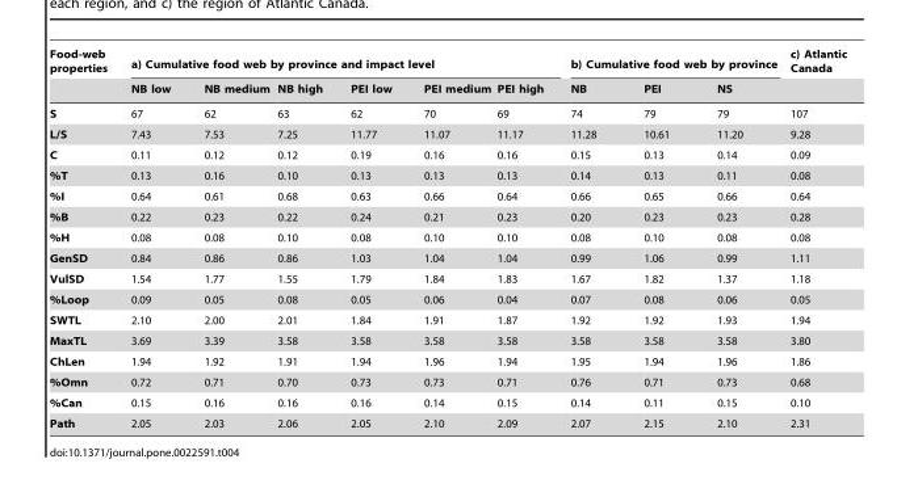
<table><thead><tr><td rowspan="2">Food-web properties</td><td colspan="6">a) Cumulative food web by province and impact level</td><td colspan="3">b) Cumulative food web by province</td><td rowspan="2">c) Atlantic Canada</td></tr><tr><td>NB low</td><td>NB medium</td><td>NB high</td><td>PEI low</td><td>PEI medium</td><td>PEI high</td><td>NB</td><td>PEI</td><td>NS</td></tr></thead><tbody><tr><td>S</td><td>67</td><td>62</td><td>63</td><td>62</td><td>70</td><td>69</td><td>74</td><td>79</td><td>79</td><td>107</td></tr><tr><td>L/S</td><td>7.43</td><td>7.53</td><td>7.25</td><td>11.77</td><td>11.07</td><td>11.17</td><td>11.28</td><td>10.61</td><td>11.20</td><td>9.28</td></tr><tr><td>C</td><td>0.11</td><td>0.12</td><td>0.12</td><td>0.19</td><td>0.16</td><td>0.16</td><td>0.15</td><td>0.13</td><td>0.14</td><td>0.09</td></tr><tr><td>%T</td><td>0.13</td><td>0.16</td><td>0.10</td><td>0.13</td><td>0.13</td><td>0.13</td><td>0.14</td><td>0.13</td><td>0.11</td><td>0.08</td></tr><tr><td>%I</td><td>0.64</td><td>0.61</td><td>0.68</td><td>0.63</td><td>0.66</td><td>0.64</td><td>0.66</td><td>0.65</td><td>0.66</td><td>0.64</td></tr><tr><td>%B</td><td>0.22</td><td>0.23</td><td>0.22</td><td>0.24</td><td>0.21</td><td>0.23</td><td>0.20</td><td>0.23</td><td>0.23</td><td>0.28</td></tr><tr><td>%H</td><td>0.08</td><td>0.08</td><td>0.10</td><td>0.08</td><td>0.10</td><td>0.10</td><td>0.08</td><td>0.10</td><td>0.08</td><td>0.08</td></tr><tr><td>GenSD</td><td>0.84</td><td>0.86</td><td>0.86</td><td>1.03</td><td>1.04</td><td>1.04</td><td>0.99</td><td>1.06</td><td>0.99</td><td>1.11</td></tr><tr><td>VulSD</td><td>1.54</td><td>1.77</td><td>1.55</td><td>1.79</td><td>1.84</td><td>1.83</td><td>1.67</td><td>1.82</td><td>1.37</td><td>1.18</td></tr><tr><td>%Loop</td><td>0.09</td><td>0.05</td><td>0.08</td><td>0.05</td><td>0.06</td><td>0.04</td><td>0.07</td><td>0.08</td><td>0.06</td><td>0.05</td></tr><tr><td>SWTL</td><td>2.10</td><td>2.00</td><td>2.01</td><td>1.84</td><td>1.91</td><td>1.87</td><td>1.92</td><td>1.92</td><td>1.93</td><td>1.94</td></tr><tr><td>MaxTL</td><td>3.69</td><td>3.39</td><td>3.58</td><td>3.58</td><td>3.58</td><td>3.58</td><td>3.58</td><td>3.58</td><td>3.58</td><td>3.80</td></tr><tr><td>ChLen</td><td>1.94</td><td>1.92</td><td>1.91</td><td>1.94</td><td>1.96</td><td>1.94</td><td>1.95</td><td>1.94</td><td>1.96</td><td>1.86</td></tr><tr><td>%Omn</td><td>0.72</td><td>0.71</td><td>0.70</td><td>0.73</td><td>0.73</td><td>0.71</td><td>0.76</td><td>0.71</td><td>0.73</td><td>0.68</td></tr><tr><td>%Can</td><td>0.15</td><td>0.16</td><td>0.16</td><td>0.16</td><td>0.14</td><td>0.15</td><td>0.14</td><td>0.11</td><td>0.15</td><td>0.10</td></tr><tr><td>Path</td><td>2.05</td><td>2.03</td><td>2.06</td><td>2.05</td><td>2.10</td><td>2.09</td><td>2.07</td><td>2.15</td><td>2.10</td><td>2.31</td></tr></tbody></table>